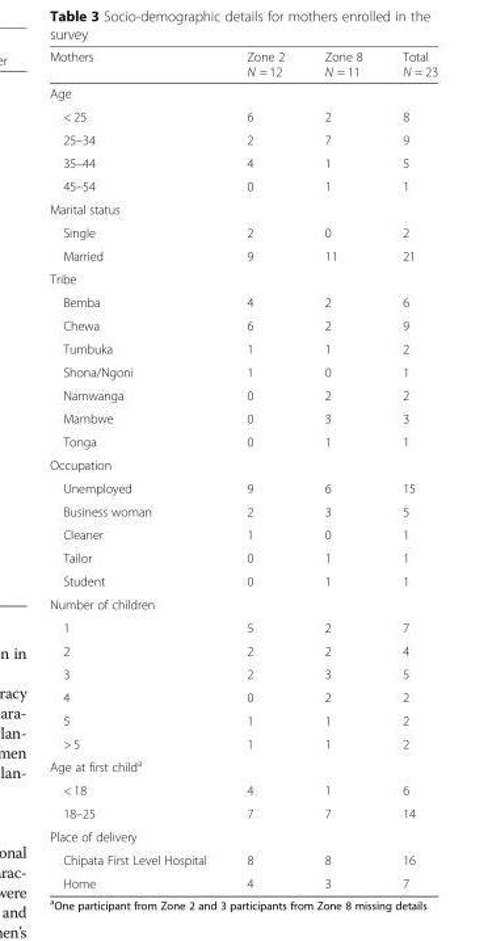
<table><thead><tr><td>Mothers</td><td>Zone 2 N = 12</td><td>Zone 8 N = 11</td><td>Total N = 23</td></tr></thead><tbody><tr><td colspan="4">Age</td></tr><tr><td>&lt; 25</td><td>6</td><td>2</td><td>8</td></tr><tr><td>25–34</td><td>2</td><td>7</td><td>9</td></tr><tr><td>35–44</td><td>4</td><td>1</td><td>5</td></tr><tr><td>45–54</td><td>0</td><td>1</td><td>1</td></tr><tr><td colspan="4">Marital status</td></tr><tr><td>Single</td><td>2</td><td>0</td><td>2</td></tr><tr><td>Married</td><td>9</td><td>11</td><td>21</td></tr><tr><td colspan="4">Tribe</td></tr><tr><td>Bemba</td><td>4</td><td>2</td><td>6</td></tr><tr><td>Chewa</td><td>6</td><td>2</td><td>9</td></tr><tr><td>Tumbuka</td><td>1</td><td>1</td><td>2</td></tr><tr><td>Shona/Ngoni</td><td>1</td><td>0</td><td>1</td></tr><tr><td>Namwanga</td><td>0</td><td>2</td><td>2</td></tr><tr><td>Mambwe</td><td>0</td><td>3</td><td>3</td></tr><tr><td>Tonga</td><td>0</td><td>1</td><td>1</td></tr><tr><td colspan="4">Occupation</td></tr><tr><td>Unemployed</td><td>9</td><td>6</td><td>15</td></tr><tr><td>Business woman</td><td>2</td><td>3</td><td>5</td></tr><tr><td>Cleaner</td><td>1</td><td>0</td><td>1</td></tr><tr><td>Tailor</td><td>0</td><td>1</td><td>1</td></tr><tr><td>Student</td><td>0</td><td>1</td><td>1</td></tr><tr><td colspan="4">Number of children</td></tr><tr><td>1</td><td>5</td><td>2</td><td>7</td></tr><tr><td>2</td><td>2</td><td>2</td><td>4</td></tr><tr><td>3</td><td>2</td><td>3</td><td>5</td></tr><tr><td>4</td><td>0</td><td>2</td><td>2</td></tr><tr><td>5</td><td>1</td><td>1</td><td>2</td></tr><tr><td>&gt; 5</td><td>1</td><td>1</td><td>2</td></tr><tr><td colspan="4">Age at first child<sup>a</sup></td></tr><tr><td>&lt; 18</td><td>4</td><td>1</td><td>6</td></tr><tr><td>18–25</td><td>7</td><td>7</td><td>14</td></tr><tr><td colspan="4">Place of delivery</td></tr><tr><td>Chipata First Level Hospital</td><td>8</td><td>8</td><td>16</td></tr><tr><td>Home</td><td>4</td><td>3</td><td>7</td></tr></tbody></table>